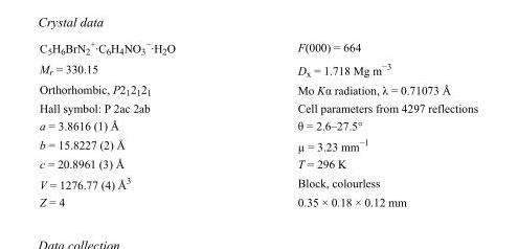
<table><tbody><tr><td>C<sub>5</sub>H<sub>6</sub>BrN<sub>2</sub> <sup>+</sup>·C<sub>6</sub>H<sub>4</sub>NO<sub>3</sub> <sup>−</sup>·H<sub>2</sub>O</td><td>F(000) = 664</td></tr><tr><td>M<sub>r</sub> = 330.15</td><td>D<sub>x</sub> = 1.718 Mg m<sup>−3</sup></td></tr><tr><td>Orthorhombic, P2<sub>1</sub>2<sub>1</sub>2<sub>1</sub></td><td>Mo Kα radiation, λ = 0.71073 Å</td></tr><tr><td>Hall symbol: P 2ac 2ab</td><td>Cell parameters from 4297 reflections</td></tr><tr><td>a = 3.8616 (1) Å</td><td>θ = 2.6–27.5°</td></tr><tr><td>b = 15.8227 (2) Å</td><td>µ = 3.23 mm<sup>−1</sup></td></tr><tr><td>c = 20.8961 (3) Å</td><td>T = 296 K</td></tr><tr><td>V = 1276.77 (4) Å<sup>3</sup></td><td>Block, colourless</td></tr><tr><td>Z = 4</td><td>0.35 × 0.18 × 0.12 mm</td></tr></tbody></table>